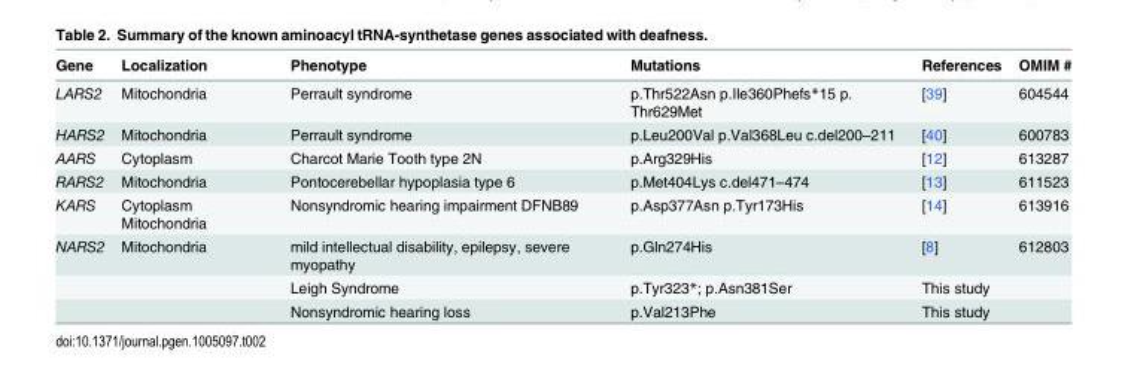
<table><thead><tr><td>Gene</td><td>Localization</td><td>Phenotype</td><td>Mutations</td><td>References</td><td>OMIM #</td></tr></thead><tbody><tr><td>LARS2</td><td>Mitochondria</td><td>Perrault syndrome</td><td>p.Thr522Asn p.Ile360Phefs*15 p. Thr629Met</td><td>[39]</td><td>604544</td></tr><tr><td>HARS2</td><td>Mitochondria</td><td>Perrault syndrome</td><td>p.Leu200Val p.Val368Leu c.del200–211</td><td>[40]</td><td>600783</td></tr><tr><td>AARS</td><td>Cytoplasm</td><td>Charcot Marie Tooth type 2N</td><td>p.Arg329His</td><td>[12]</td><td>613287</td></tr><tr><td>RARS2</td><td>Mitochondria</td><td>Pontocerebellar hypoplasia type 6</td><td>p.Met404Lys c.del471–474</td><td>[13]</td><td>611523</td></tr><tr><td>KARS</td><td>Cytoplasm Mitochondria</td><td>Nonsyndromic hearing impairment DFNB89</td><td>p.Asp377Asn p.Tyr173His</td><td>[14]</td><td>613916</td></tr><tr><td rowspan="3">NARS2</td><td>Mitochondria</td><td>mild intellectual disability, epilepsy, severe myopathy</td><td>p.Gln274His</td><td>[8]</td><td>612803</td></tr><tr><td></td><td>Leigh Syndrome</td><td>p.Tyr323*; p.Asn381Ser</td><td>This study</td><td></td></tr><tr><td></td><td>Nonsyndromic hearing loss</td><td>p.Val213Phe</td><td>This study</td><td></td></tr></tbody></table>